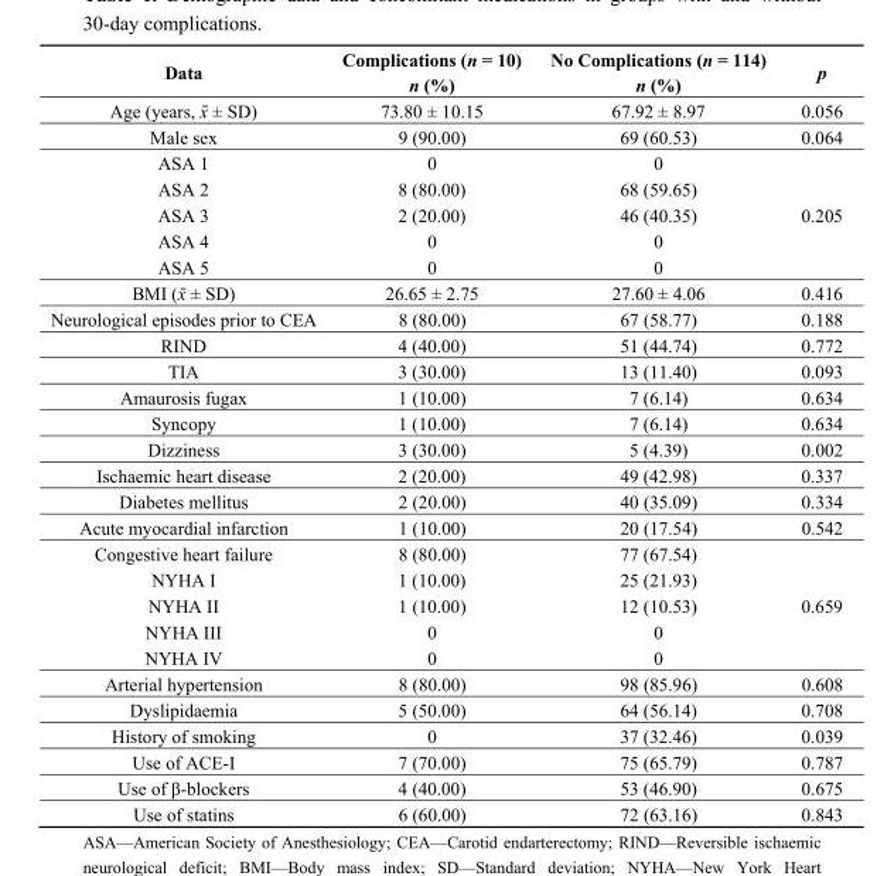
<table><thead><tr><td>Data</td><td>Complications (n = 10) n (%)</td><td>No Complications (n = 114) n (%)</td><td>p</td></tr></thead><tbody><tr><td>Age (years, x̄ ± SD)</td><td>73.80 ± 10.15</td><td>67.92 ± 8.97</td><td>0.056</td></tr><tr><td>Male sex</td><td>9 (90.00)</td><td>69 (60.53)</td><td>0.064</td></tr><tr><td>ASA 1</td><td>0</td><td>0</td><td rowspan="5">0.205</td></tr><tr><td>ASA 2</td><td>8 (80.00)</td><td>68 (59.65)</td></tr><tr><td>ASA 3</td><td>2 (20.00)</td><td>46 (40.35)</td></tr><tr><td>ASA 4</td><td>0</td><td>0</td></tr><tr><td>ASA 5</td><td>0</td><td>0</td></tr><tr><td>BMI (x̄ ± SD)</td><td>26.65 ± 2.75</td><td>27.60 ± 4.06</td><td>0.416</td></tr><tr><td>Neurological episodes prior to CEA</td><td>8 (80.00)</td><td>67 (58.77)</td><td>0.188</td></tr><tr><td>RIND</td><td>4 (40.00)</td><td>51 (44.74)</td><td>0.772</td></tr><tr><td>TIA</td><td>3 (30.00)</td><td>13 (11.40)</td><td>0.093</td></tr><tr><td>Amaurosis fugax</td><td>1 (10.00)</td><td>7 (6.14)</td><td>0.634</td></tr><tr><td>Syncopy</td><td>1 (10.00)</td><td>7 (6.14)</td><td>0.634</td></tr><tr><td>Dizziness</td><td>3 (30.00)</td><td>5 (4.39)</td><td>0.002</td></tr><tr><td>Ischaemic heart disease</td><td>2 (20.00)</td><td>49 (42.98)</td><td>0.337</td></tr><tr><td>Diabetes mellitus</td><td>2 (20.00)</td><td>40 (35.09)</td><td>0.334</td></tr><tr><td>Acute myocardial infarction</td><td>1 (10.00)</td><td>20 (17.54)</td><td>0.542</td></tr><tr><td>Congestive heart failure</td><td>8 (80.00)</td><td>77 (67.54)</td><td rowspan="5">0.659</td></tr><tr><td>NYHA I</td><td>1 (10.00)</td><td>25 (21.93)</td></tr><tr><td>NYHA II</td><td>1 (10.00)</td><td>12 (10.53)</td></tr><tr><td>NYHA III</td><td>0</td><td>0</td></tr><tr><td>NYHA IV</td><td>0</td><td>0</td></tr><tr><td>Arterial hypertension</td><td>8 (80.00)</td><td>98 (85.96)</td><td>0.608</td></tr><tr><td>Dyslipidaemia</td><td>5 (50.00)</td><td>64 (56.14)</td><td>0.708</td></tr><tr><td>History of smoking</td><td>0</td><td>37 (32.46)</td><td>0.039</td></tr><tr><td>Use of ACE-I</td><td>7 (70.00)</td><td>75 (65.79)</td><td>0.787</td></tr><tr><td>Use of β-blockers</td><td>4 (40.00)</td><td>53 (46.90)</td><td>0.675</td></tr><tr><td>Use of statins</td><td>6 (60.00)</td><td>72 (63.16)</td><td>0.843</td></tr></tbody></table>